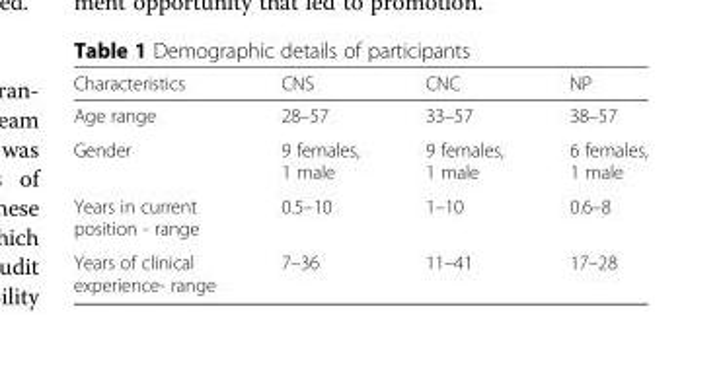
<table><thead><tr><td>Characteristics</td><td>CNS</td><td>CNC</td><td>NP</td></tr></thead><tbody><tr><td>Age range</td><td>28–57</td><td>33–57</td><td>38–57</td></tr><tr><td>Gender</td><td>9 females, 1 male</td><td>9 females, 1 male</td><td>6 females, 1 male</td></tr><tr><td>Years in current position - range</td><td>0.5–10</td><td>1–10</td><td>0.6–8</td></tr><tr><td>Years of clinical experience- range</td><td>7–36</td><td>11–41</td><td>17–28</td></tr></tbody></table>